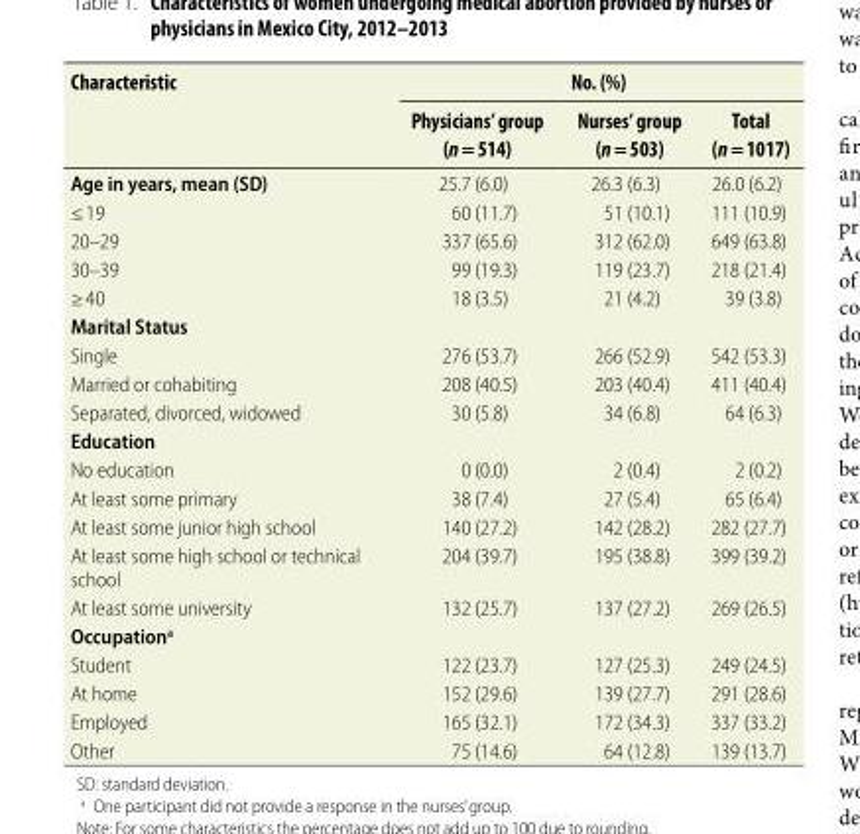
<table><thead><tr><td rowspan="2">Characteristic</td><td colspan="3">No. (%)</td></tr><tr><td>Physicians’ group (n = 514)</td><td>Nurses’ group (n = 503)</td><td>Total (n = 1017)</td></tr></thead><tbody><tr><td>Age in years, mean (SD)</td><td>25.7 (6.0)</td><td>26.3 (6.3)</td><td>26.0 (6.2)</td></tr><tr><td>≤ 19</td><td>60 (11.7)</td><td>51 (10.1)</td><td>111 (10.9)</td></tr><tr><td>20–29</td><td>337 (65.6)</td><td>312 (62.0)</td><td>649 (63.8)</td></tr><tr><td>30–39</td><td>99 (19.3)</td><td>119 (23.7)</td><td>218 (21.4)</td></tr><tr><td>≥ 40</td><td>18 (3.5)</td><td>21 (4.2)</td><td>39 (3.8)</td></tr><tr><td colspan="4">Marital Status</td></tr><tr><td>Single</td><td>276 (53.7)</td><td>266 (52.9)</td><td>542 (53.3)</td></tr><tr><td>Married or cohabiting</td><td>208 (40.5)</td><td>203 (40.4)</td><td>411 (40.4)</td></tr><tr><td>Separated, divorced, widowed</td><td>30 (5.8)</td><td>34 (6.8)</td><td>64 (6.3)</td></tr><tr><td colspan="4">Education</td></tr><tr><td>No education</td><td>0 (0.0)</td><td>2 (0.4)</td><td>2 (0.2)</td></tr><tr><td>At least some primary</td><td>38 (7.4)</td><td>27 (5.4)</td><td>65 (6.4)</td></tr><tr><td>At least some junior high school</td><td>140 (27.2)</td><td>142 (28.2)</td><td>282 (27.7)</td></tr><tr><td>At least some high school or technical school</td><td>204 (39.7)</td><td>195 (38.8)</td><td>399 (39.2)</td></tr><tr><td>At least some university</td><td>132 (25.7)</td><td>137 (27.2)</td><td>269 (26.5)</td></tr><tr><td colspan="4">Occupation<sup>a</sup></td></tr><tr><td>Student</td><td>122 (23.7)</td><td>127 (25.3)</td><td>249 (24.5)</td></tr><tr><td>At home</td><td>152 (29.6)</td><td>139 (27.7)</td><td>291 (28.6)</td></tr><tr><td>Employed</td><td>165 (32.1)</td><td>172 (34.3)</td><td>337 (33.2)</td></tr><tr><td>Other</td><td>75 (14.6)</td><td>64 (12.8)</td><td>139 (13.7)</td></tr></tbody></table>